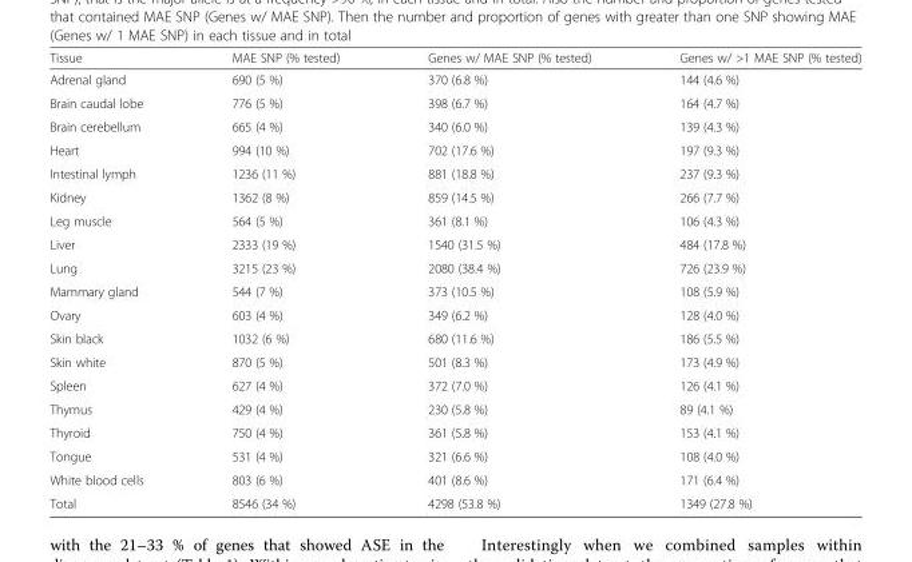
<table><thead><tr><td>Tissue</td><td>MAE SNP (% tested)</td><td>Genes w/ MAE SNP (% tested)</td><td>Genes w/ &gt;1 MAE SNP (% tested)</td></tr></thead><tbody><tr><td>Adrenal gland</td><td>690 (5 %)</td><td>370 (6.8 %)</td><td>144 (4.6 %)</td></tr><tr><td>Brain caudal lobe</td><td>776 (5 %)</td><td>398 (6.7 %)</td><td>164 (4.7 %)</td></tr><tr><td>Brain cerebellum</td><td>665 (4 %)</td><td>340 (6.0 %)</td><td>139 (4.3 %)</td></tr><tr><td>Heart</td><td>994 (10 %)</td><td>702 (17.6 %)</td><td>197 (9.3 %)</td></tr><tr><td>Intestinal lymph</td><td>1236 (11 %)</td><td>881 (18.8 %)</td><td>237 (9.3 %)</td></tr><tr><td>Kidney</td><td>1362 (8 %)</td><td>859 (14.5 %)</td><td>266 (7.7 %)</td></tr><tr><td>Leg muscle</td><td>564 (5 %)</td><td>361 (8.1 %)</td><td>106 (4.3 %)</td></tr><tr><td>Liver</td><td>2333 (19 %)</td><td>1540 (31.5 %)</td><td>484 (17.8 %)</td></tr><tr><td>Lung</td><td>3215 (23 %)</td><td>2080 (38.4 %)</td><td>726 (23.9 %)</td></tr><tr><td>Mammary gland</td><td>544 (7 %)</td><td>373 (10.5 %)</td><td>108 (5.9 %)</td></tr><tr><td>Ovary</td><td>603 (4 %)</td><td>349 (6.2 %)</td><td>128 (4.0 %)</td></tr><tr><td>Skin black</td><td>1032 (6 %)</td><td>680 (11.6 %)</td><td>186 (5.5 %)</td></tr><tr><td>Skin white</td><td>870 (5 %)</td><td>501 (8.3 %)</td><td>173 (4.9 %)</td></tr><tr><td>Spleen</td><td>627 (4 %)</td><td>372 (7.0 %)</td><td>126 (4.1 %)</td></tr><tr><td>Thymus</td><td>429 (4 %)</td><td>230 (5.8 %)</td><td>89 (4.1 %)</td></tr><tr><td>Thyroid</td><td>750 (4 %)</td><td>361 (5.8 %)</td><td>153 (4.1 %)</td></tr><tr><td>Tongue</td><td>531 (4 %)</td><td>321 (6.6 %)</td><td>108 (4.0 %)</td></tr><tr><td>White blood cells</td><td>803 (6 %)</td><td>401 (8.6 %)</td><td>171 (6.4 %)</td></tr><tr><td>Total</td><td>8546 (34 %)</td><td>4298 (53.8 %)</td><td>1349 (27.8 %)</td></tr></tbody></table>